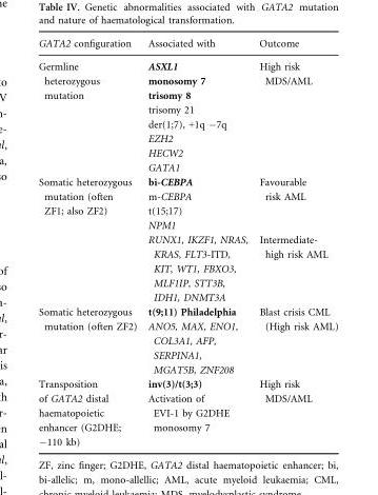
<table><thead><tr><td>GATA2 configuration</td><td>Associated with</td><td>Outcome</td></tr></thead><tbody><tr><td>Germline heterozygous mutation</td><td>ASXL1 monosomy 7 trisomy 8 trisomy 21 der(1;7), +1q −7q EZH2 HECW2 GATA1</td><td>High risk MDS/AML</td></tr><tr><td rowspan="2">Somatic heterozygous mutation (often ZF1; also ZF2)</td><td>bi-CEBPA m-CEBPA t(15;17) NPM1</td><td>Favourable risk AML</td></tr><tr><td>RUNX1, IKZF1, NRAS, KRAS, FLT3-ITD, KIT, WT1, FBXO3, MLF1IP, STT3B, IDH1, DNMT3A</td><td>Intermediate- high risk AML</td></tr><tr><td>Somatic heterozygous mutation (often ZF2)</td><td>t(9;11) Philadelphia ANO5, MAX, ENO1, COL3A1, AFP, SERPINA1, MGAT5B, ZNF208</td><td>Blast crisis CML (High risk AML)</td></tr><tr><td>Transposition of GATA2 distal haematopoietic enhancer (G2DHE; −110 kb)</td><td>inv(3)/t(3;3) Activation of EVI-1 by G2DHE monosomy 7</td><td>High risk MDS/AML</td></tr></tbody></table>